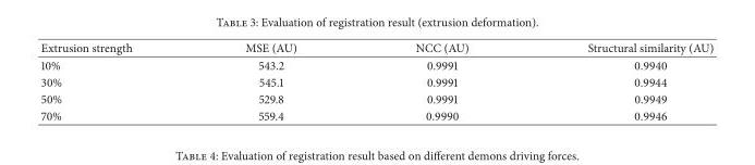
<table><thead><tr><td>Extrusion strength</td><td>MSE (AU)</td><td>NCC (AU)</td><td>Structural similarity (AU)</td></tr></thead><tbody><tr><td>10%</td><td>543.2</td><td>0.9991</td><td>0.9940</td></tr><tr><td>30%</td><td>545.1</td><td>0.9991</td><td>0.9944</td></tr><tr><td>50%</td><td>529.8</td><td>0.9991</td><td>0.9949</td></tr><tr><td>70%</td><td>559.4</td><td>0.9990</td><td>0.9946</td></tr></tbody></table>